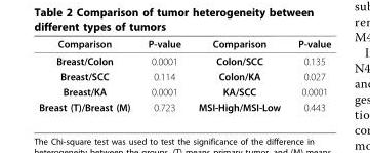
<table><thead><tr><td>Comparison</td><td>P-value</td><td>Comparison</td><td>P-value</td></tr></thead><tbody><tr><td>Breast/Colon</td><td>0.0001</td><td>Colon/SCC</td><td>0.135</td></tr><tr><td>Breast/SCC</td><td>0.114</td><td>Colon/KA</td><td>0.027</td></tr><tr><td>Breast/KA</td><td>0.0001</td><td>KA/SCC</td><td>0.0001</td></tr><tr><td>Breast (T)/Breast (M)</td><td>0.723</td><td>MSI-High/MSI-Low</td><td>0.443</td></tr></tbody></table>